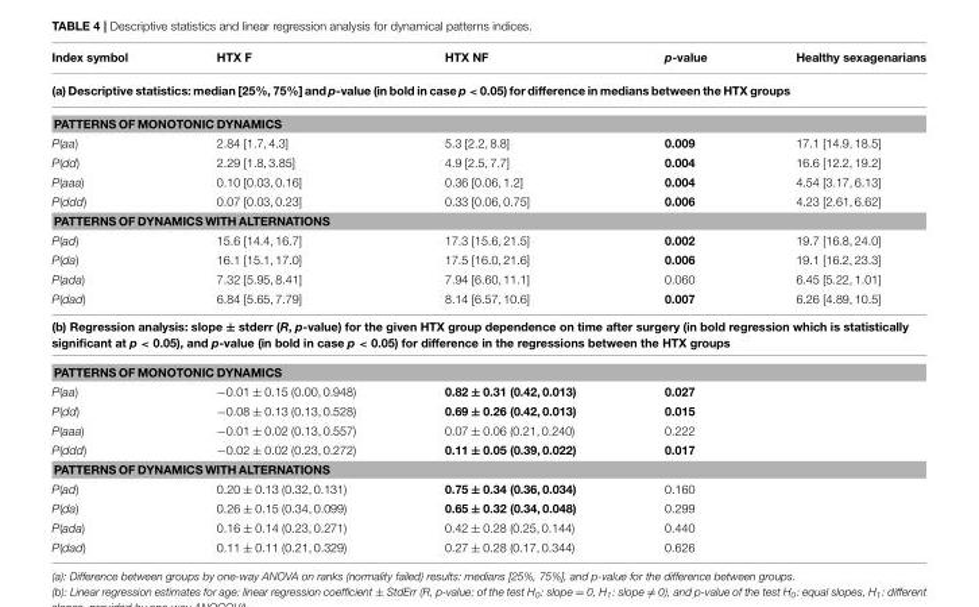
<table><thead><tr><td>Index symbol</td><td>HTX F</td><td>HTX NF</td><td>p-value</td><td>Healthy sexagenarians</td></tr></thead><tbody><tr><td colspan="5">(a) Descriptive statistics: median [25%, 75%] and p-value (in bold in case p &lt; 0.05) for difference in medians between the HTX groups</td></tr><tr><td colspan="5">PATTERNS OF MONOTONIC DYNAMICS</td></tr><tr><td>P(aa)</td><td>2.84 [1.7, 4.3]</td><td>5.3 [2.2, 8.8]</td><td>0.009</td><td>17.1 [14.9, 18.5]</td></tr><tr><td>P(dd)</td><td>2.29 [1.8, 3.85]</td><td>4.9 [2.5, 7.7]</td><td>0.004</td><td>16.6 [12.2, 19.2]</td></tr><tr><td>P(aaa)</td><td>0.10 [0.03, 0.16]</td><td>0.36 [0.06, 1.2]</td><td>0.004</td><td>4.54 [3.17, 6.13]</td></tr><tr><td>P(ddd)</td><td>0.07 [0.03, 0.23]</td><td>0.33 [0.06, 0.75]</td><td>0.006</td><td>4.23 [2.61, 6.62]</td></tr><tr><td colspan="5">PATTERNS OF DYNAMICS WITH ALTERNATIONS</td></tr><tr><td>P(ad)</td><td>15.6 [14.4, 16.7]</td><td>17.3 [15.6, 21.5]</td><td>0.002</td><td>19.7 [16.8, 24.0]</td></tr><tr><td>P(da)</td><td>16.1 [15.1, 17.0]</td><td>17.5 [16.0, 21.6]</td><td>0.006</td><td>19.1 [16.2, 23.3]</td></tr><tr><td>P(ada)</td><td>7.32 [5.95, 8.41]</td><td>7.94 [6.60, 11.1]</td><td>0.060</td><td>6.45 [5.22, 1.01]</td></tr><tr><td>P(dad)</td><td>6.84 [5.65, 7.79]</td><td>8.14 [6.57, 10.6]</td><td>0.007</td><td>6.26 [4.89, 10.5]</td></tr><tr><td colspan="5">(b) Regression analysis: slope ± stderr (R, p-value) for the given HTX group dependence on time after surgery (in bold regression which is statistically significant at p &lt; 0.05), and p-value (in bold in case p &lt; 0.05) for difference in the regressions between the HTX groups</td></tr><tr><td colspan="5">PATTERNS OF MONOTONIC DYNAMICS</td></tr><tr><td>P(aa)</td><td>−0.01 ± 0.15 (0.00, 0.948)</td><td>0.82 ± 0.31 (0.42, 0.013)</td><td>0.027</td><td></td></tr><tr><td>P(dd)</td><td>−0.08 ± 0.13 (0.13, 0.528)</td><td>0.69 ± 0.26 (0.42, 0.013)</td><td>0.015</td><td></td></tr><tr><td>P(aaa)</td><td>−0.01 ± 0.02 (0.13, 0.557)</td><td>0.07 ± 0.06 (0.21, 0.240)</td><td>0.222</td><td></td></tr><tr><td>P(ddd)</td><td>−0.02 ± 0.02 (0.23, 0.272)</td><td>0.11 ± 0.05 (0.39, 0.022)</td><td>0.017</td><td></td></tr><tr><td colspan="5">PATTERNS OF DYNAMICS WITH ALTERNATIONS</td></tr><tr><td>P(ad)</td><td>0.20 ± 0.13 (0.32, 0.131)</td><td>0.75 ± 0.34 (0.36, 0.034)</td><td>0.160</td><td></td></tr><tr><td>P(da)</td><td>0.26 ± 0.15 (0.34, 0.099)</td><td>0.65 ± 0.32 (0.34, 0.048)</td><td>0.299</td><td></td></tr><tr><td>P(ada)</td><td>0.16 ± 0.14 (0.23, 0.271)</td><td>0.42 ± 0.28 (0.25, 0.144)</td><td>0.440</td><td></td></tr><tr><td>P(dad)</td><td>0.11 ± 0.11 (0.21, 0.329)</td><td>0.27 ± 0.28 (0.17, 0.344)</td><td>0.626</td><td></td></tr></tbody></table>